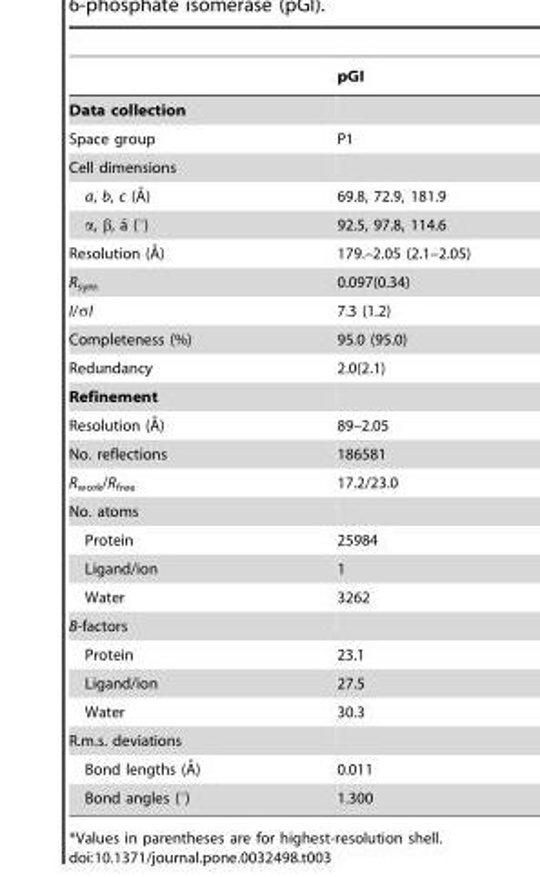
<table><thead><tr><td></td><td>pGI</td></tr></thead><tbody><tr><td colspan="2">Data collection</td></tr><tr><td>Space group</td><td>P1</td></tr><tr><td colspan="2">Cell dimensions</td></tr><tr><td>a, b, c (A˚)</td><td>69.8, 72.9, 181.9</td></tr><tr><td>a, b, a˜ (u)</td><td>92.5, 97.8, 114.6</td></tr><tr><td>Resolution (A˚)</td><td>179.–2.05 (2.1–2.05)</td></tr><tr><td>R<sub>sym</sub></td><td>0.097(0.34)</td></tr><tr><td>I/σI</td><td>7.3 (1.2)</td></tr><tr><td>Completeness (%)</td><td>95.0 (95.0)</td></tr><tr><td>Redundancy</td><td>2.0(2.1)</td></tr><tr><td colspan="2">Refinement</td></tr><tr><td>Resolution (A˚)</td><td>89–2.05</td></tr><tr><td>No. reflections</td><td>186581</td></tr><tr><td>R<sub>work</sub>/R<sub>free</sub></td><td>17.2/23.0</td></tr><tr><td colspan="2">No. atoms</td></tr><tr><td>Protein</td><td>25984</td></tr><tr><td>Ligand/ion</td><td>1</td></tr><tr><td>Water</td><td>3262</td></tr><tr><td colspan="2">B-factors</td></tr><tr><td>Protein</td><td>23.1</td></tr><tr><td>Ligand/ion</td><td>27.5</td></tr><tr><td>Water</td><td>30.3</td></tr><tr><td colspan="2">R.m.s. deviations</td></tr><tr><td>Bond lengths (A˚)</td><td>0.011</td></tr><tr><td>Bond angles (°)</td><td>1.300</td></tr></tbody></table>